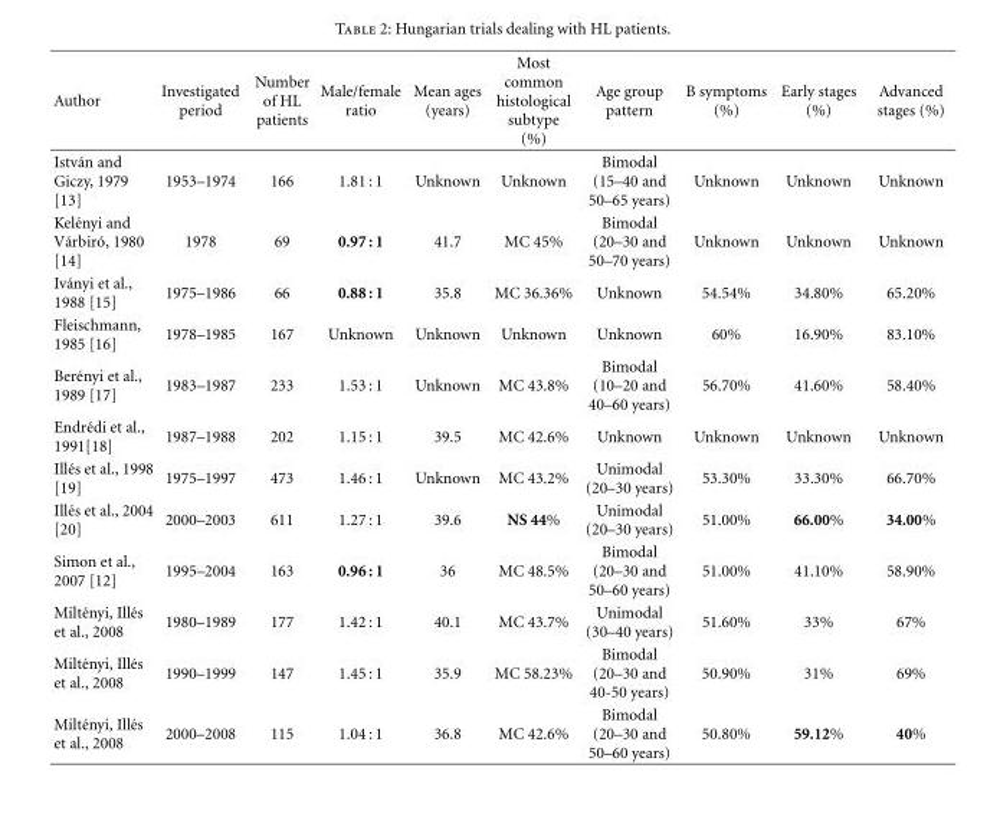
<table><thead><tr><td>Author</td><td>Investigated period</td><td>Number of HL patients</td><td>Male/female ratio</td><td>Mean ages (years)</td><td>Most common histological subtype (%)</td><td>Age group pattern</td><td>B symptoms (%)</td><td>Early stages (%)</td><td>Advanced stages (%)</td></tr></thead><tbody><tr><td>Istv´an and Giczy, 1979 [13]</td><td>1953–1974</td><td>166</td><td>1.81 : 1</td><td>Unknown</td><td>Unknown</td><td>Bimodal (15–40 and 50–65 years)</td><td>Unknown</td><td>Unknown</td><td>Unknown</td></tr><tr><td>Kel´enyi and V´arbir´o, 1980 [14]</td><td>1978</td><td>69</td><td>0.97 : 1</td><td>41.7</td><td>MC 45%</td><td>Bimodal (20–30 and 50–70 years)</td><td>Unknown</td><td>Unknown</td><td>Unknown</td></tr><tr><td>Iv´anyi et al., 1988 [15]</td><td>1975–1986</td><td>66</td><td>0.88 : 1</td><td>35.8</td><td>MC 36.36%</td><td>Unknown</td><td>54.54%</td><td>34.80%</td><td>65.20%</td></tr><tr><td>Fleischmann, 1985 [16]</td><td>1978–1985</td><td>167</td><td>Unknown</td><td>Unknown</td><td>Unknown</td><td>Unknown</td><td>60%</td><td>16.90%</td><td>83.10%</td></tr><tr><td>Ber´enyi et al., 1989 [17]</td><td>1983–1987</td><td>233</td><td>1.53 : 1</td><td>Unknown</td><td>MC 43.8%</td><td>Bimodal (10–20 and 40–60 years)</td><td>56.70%</td><td>41.60%</td><td>58.40%</td></tr><tr><td>Endr´edi et al., 1991[18]</td><td>1987–1988</td><td>202</td><td>1.15 : 1</td><td>39.5</td><td>MC 42.6%</td><td>Unknown</td><td>Unknown</td><td>Unknown</td><td>Unknown</td></tr><tr><td>Ill´es et al., 1998 [19]</td><td>1975–1997</td><td>473</td><td>1.46 : 1</td><td>Unknown</td><td>MC 43.2%</td><td>Unimodal (20–30 years)</td><td>53.30%</td><td>33.30%</td><td>66.70%</td></tr><tr><td>Ill´es et al., 2004 [20]</td><td>2000–2003</td><td>611</td><td>1.27 : 1</td><td>39.6</td><td>NS 44%</td><td>Unimodal (20–30 years)</td><td>51.00%</td><td>66.00%</td><td>34.00%</td></tr><tr><td>Simon et al., 2007 [12]</td><td>1995–2004</td><td>163</td><td>0.96 : 1</td><td>36</td><td>MC 48.5%</td><td>Bimodal (20–30 and 50–60 years)</td><td>51.00%</td><td>41.10%</td><td>58.90%</td></tr><tr><td>Milt´enyi, Ill´es et al., 2008</td><td>1980–1989</td><td>177</td><td>1.42 : 1</td><td>40.1</td><td>MC 43.7%</td><td>Unimodal (30–40 years)</td><td>51.60%</td><td>33%</td><td>67%</td></tr><tr><td>Milt´enyi, Ill´es et al., 2008</td><td>1990–1999</td><td>147</td><td>1.45 : 1</td><td>35.9</td><td>MC 58.23%</td><td>Bimodal (20–30 and 40-50 years)</td><td>50.90%</td><td>31%</td><td>69%</td></tr><tr><td>Milt´enyi, Ill´es et al., 2008</td><td>2000–2008</td><td>115</td><td>1.04 : 1</td><td>36.8</td><td>MC 42.6%</td><td>Bimodal (20–30 and 50–60 years)</td><td>50.80%</td><td>59.12%</td><td>40%</td></tr></tbody></table>